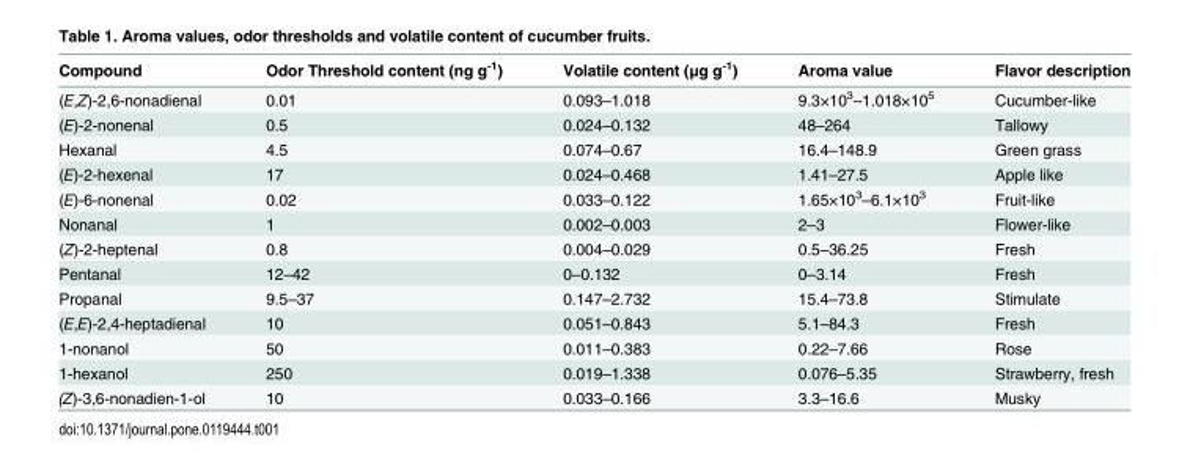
<table><thead><tr><td>Compound</td><td>Odor Threshold content (ng g<sup>-1</sup>)</td><td>Volatile content (μg g<sup>-1</sup>)</td><td>Aroma value</td><td>Flavor description</td></tr></thead><tbody><tr><td>(E,Z)-2,6-nonadienal</td><td>0.01</td><td>0.093–1.018</td><td>9.3×10<sup>3</sup>–1.018×10<sup>5</sup></td><td>Cucumber-like</td></tr><tr><td>(E)-2-nonenal</td><td>0.5</td><td>0.024–0.132</td><td>48–264</td><td>Tallowy</td></tr><tr><td>Hexanal</td><td>4.5</td><td>0.074–0.67</td><td>16.4–148.9</td><td>Green grass</td></tr><tr><td>(E)-2-hexenal</td><td>17</td><td>0.024–0.468</td><td>1.41–27.5</td><td>Apple like</td></tr><tr><td>(E)-6-nonenal</td><td>0.02</td><td>0.033–0.122</td><td>1.65×10<sup>3</sup>–6.1×10<sup>3</sup></td><td>Fruit-like</td></tr><tr><td>Nonanal</td><td>1</td><td>0.002–0.003</td><td>2–3</td><td>Flower-like</td></tr><tr><td>(Z)-2-heptenal</td><td>0.8</td><td>0.004–0.029</td><td>0.5–36.25</td><td>Fresh</td></tr><tr><td>Pentanal</td><td>12–42</td><td>0–0.132</td><td>0–3.14</td><td>Fresh</td></tr><tr><td>Propanal</td><td>9.5–37</td><td>0.147–2.732</td><td>15.4–73.8</td><td>Stimulate</td></tr><tr><td>(E,E)-2,4-heptadienal</td><td>10</td><td>0.051–0.843</td><td>5.1–84.3</td><td>Fresh</td></tr><tr><td>1-nonanol</td><td>50</td><td>0.011–0.383</td><td>0.22–7.66</td><td>Rose</td></tr><tr><td>1-hexanol</td><td>250</td><td>0.019–1.338</td><td>0.076–5.35</td><td>Strawberry, fresh</td></tr><tr><td>(Z)-3,6-nonadien-1-ol</td><td>10</td><td>0.033–0.166</td><td>3.3–16.6</td><td>Musky</td></tr></tbody></table>